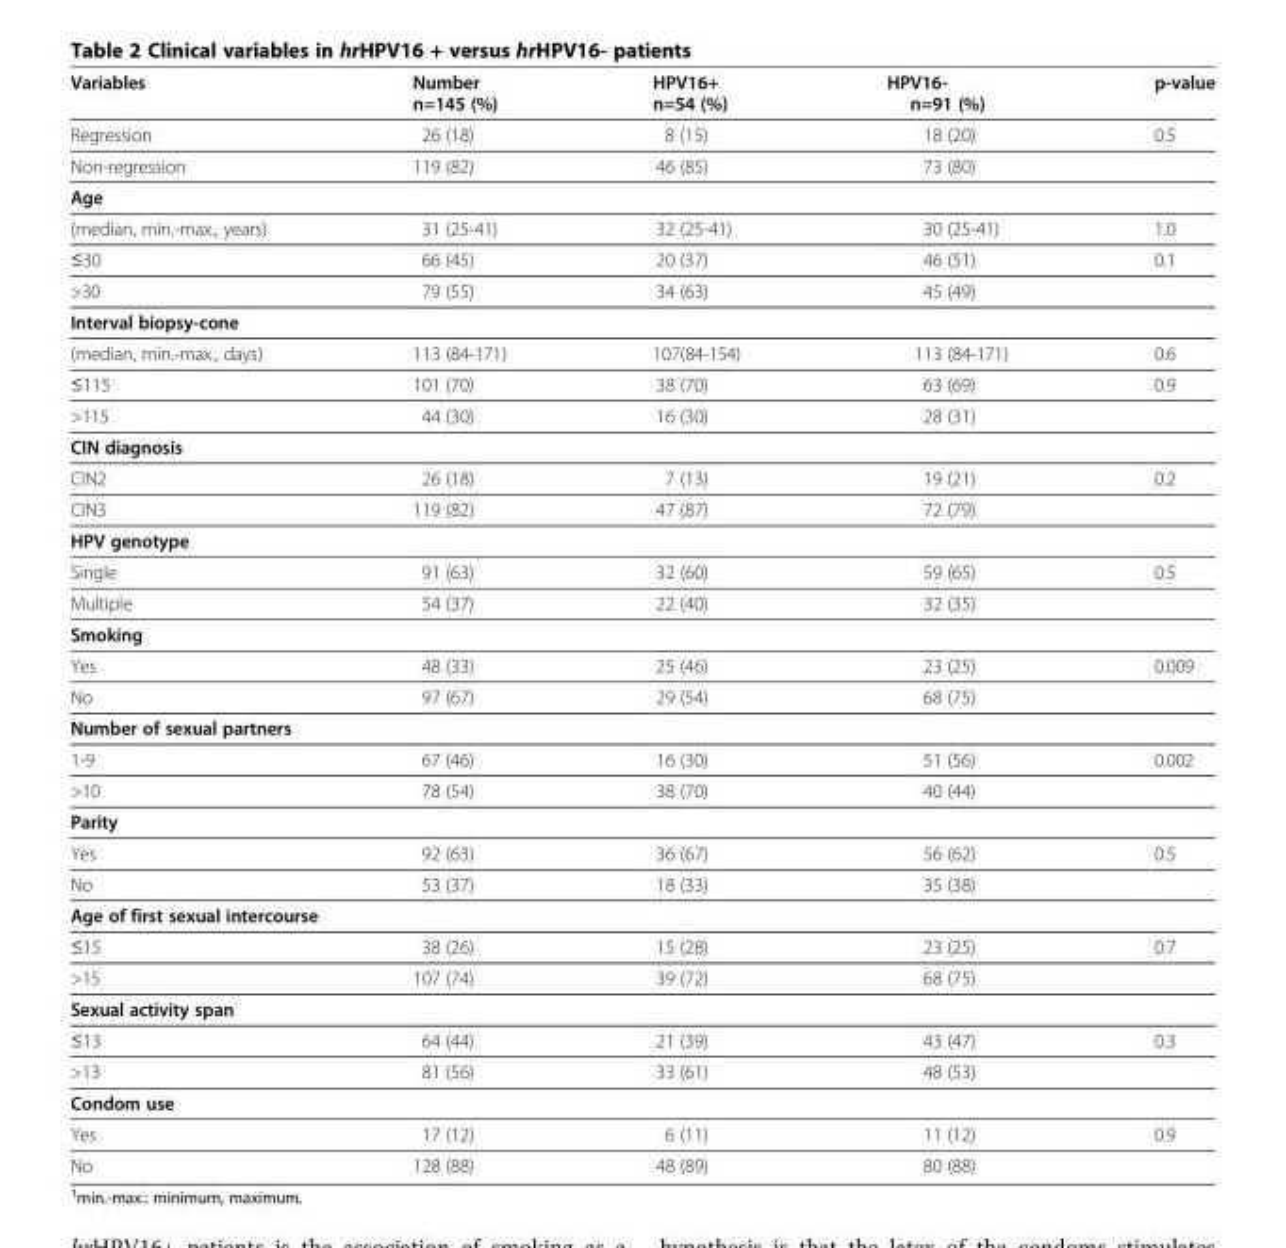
<table><thead><tr><td>Variables</td><td>Number n=145 (%)</td><td>HPV16+ n=54 (%)</td><td>HPV16- n=91 (%)</td><td>p-value</td></tr></thead><tbody><tr><td>Regression</td><td>26 (18)</td><td>8 (15)</td><td>18 (20)</td><td>0.5</td></tr><tr><td>Non-regression</td><td>119 (82)</td><td>46 (85)</td><td>73 (80)</td><td></td></tr><tr><td colspan="5">Age</td></tr><tr><td>(median, min.-max., years)</td><td>31 (25-41)</td><td>32 (25-41)</td><td>30 (25-41)</td><td>1.0</td></tr><tr><td>≤30</td><td>66 (45)</td><td>20 (37)</td><td>46 (51)</td><td>0.1</td></tr><tr><td>&gt;30</td><td>79 (55)</td><td>34 (63)</td><td>45 (49)</td><td></td></tr><tr><td colspan="5">Interval biopsy-cone</td></tr><tr><td>(median, min.-max., days)</td><td>113 (84-171)</td><td>107(84-154)</td><td>113 (84-171)</td><td>0.6</td></tr><tr><td>≤115</td><td>101 (70)</td><td>38 (70)</td><td>63 (69)</td><td>0.9</td></tr><tr><td>&gt;115</td><td>44 (30)</td><td>16 (30)</td><td>28 (31)</td><td></td></tr><tr><td colspan="5">CIN diagnosis</td></tr><tr><td>CIN2</td><td>26 (18)</td><td>7 (13)</td><td>19 (21)</td><td>0.2</td></tr><tr><td>CIN3</td><td>119 (82)</td><td>47 (87)</td><td>72 (79)</td><td></td></tr><tr><td colspan="5">HPV genotype</td></tr><tr><td>Single</td><td>91 (63)</td><td>32 (60)</td><td>59 (65)</td><td>0.5</td></tr><tr><td>Multiple</td><td>54 (37)</td><td>22 (40)</td><td>32 (35)</td><td></td></tr><tr><td colspan="5">Smoking</td></tr><tr><td>Yes</td><td>48 (33)</td><td>25 (46)</td><td>23 (25)</td><td>0.009</td></tr><tr><td>No</td><td>97 (67)</td><td>29 (54)</td><td>68 (75)</td><td></td></tr><tr><td colspan="5">Number of sexual partners</td></tr><tr><td>1-9</td><td>67 (46)</td><td>16 (30)</td><td>51 (56)</td><td>0.002</td></tr><tr><td>&gt;10</td><td>78 (54)</td><td>38 (70)</td><td>40 (44)</td><td></td></tr><tr><td colspan="5">Parity</td></tr><tr><td>Yes</td><td>92 (63)</td><td>36 (67)</td><td>56 (62)</td><td>0.5</td></tr><tr><td>No</td><td>53 (37)</td><td>18 (33)</td><td>35 (38)</td><td></td></tr><tr><td colspan="5">Age of first sexual intercourse</td></tr><tr><td>≤15</td><td>38 (26)</td><td>15 (28)</td><td>23 (25)</td><td>0.7</td></tr><tr><td>&gt;15</td><td>107 (74)</td><td>39 (72)</td><td>68 (75)</td><td></td></tr><tr><td colspan="5">Sexual activity span</td></tr><tr><td>≤13</td><td>64 (44)</td><td>21 (39)</td><td>43 (47)</td><td>0.3</td></tr><tr><td>&gt;13</td><td>81 (56)</td><td>33 (61)</td><td>48 (53)</td><td></td></tr><tr><td colspan="5">Condom use</td></tr><tr><td>Yes</td><td>17 (12)</td><td>6 (11)</td><td>11 (12)</td><td>0.9</td></tr><tr><td>No</td><td>128 (88)</td><td>48 (89)</td><td>80 (88)</td><td></td></tr></tbody></table>